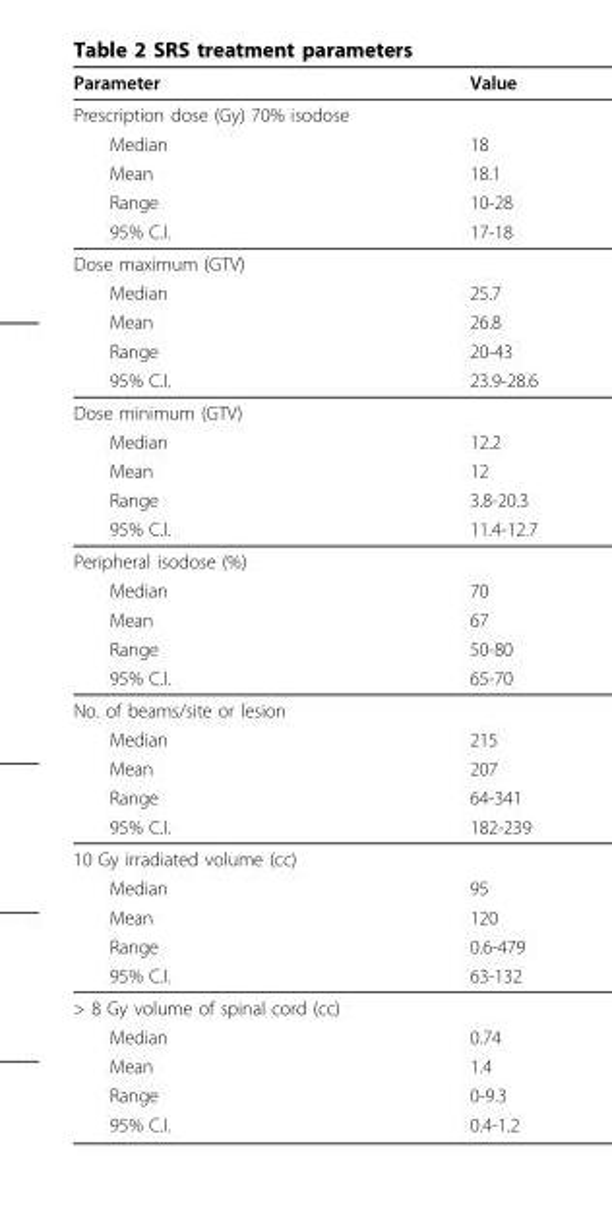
<table><thead><tr><td>Parameter</td><td>Value</td></tr></thead><tbody><tr><td colspan="2">Prescription dose (Gy) 70% isodose</td></tr><tr><td>Median</td><td>18</td></tr><tr><td>Mean</td><td>18.1</td></tr><tr><td>Range</td><td>10-28</td></tr><tr><td>95% C.I.</td><td>17-18</td></tr><tr><td colspan="2">Dose maximum (GTV)</td></tr><tr><td>Median</td><td>25.7</td></tr><tr><td>Mean</td><td>26.8</td></tr><tr><td>Range</td><td>20-43</td></tr><tr><td>95% C.I.</td><td>23.9-28.6</td></tr><tr><td colspan="2">Dose minimum (GTV)</td></tr><tr><td>Median</td><td>12.2</td></tr><tr><td>Mean</td><td>12</td></tr><tr><td>Range</td><td>3.8-20.3</td></tr><tr><td>95% C.I.</td><td>11.4-12.7</td></tr><tr><td colspan="2">Peripheral isodose (%)</td></tr><tr><td>Median</td><td>70</td></tr><tr><td>Mean</td><td>67</td></tr><tr><td>Range</td><td>50-80</td></tr><tr><td>95% C.I.</td><td>65-70</td></tr><tr><td colspan="2">No. of beams/site or lesion</td></tr><tr><td>Median</td><td>215</td></tr><tr><td>Mean</td><td>207</td></tr><tr><td>Range</td><td>64-341</td></tr><tr><td>95% C.I.</td><td>182-239</td></tr><tr><td colspan="2">10 Gy irradiated volume (cc)</td></tr><tr><td>Median</td><td>95</td></tr><tr><td>Mean</td><td>120</td></tr><tr><td>Range</td><td>0.6-479</td></tr><tr><td>95% C.I.</td><td>63-132</td></tr><tr><td colspan="2">&gt; 8 Gy volume of spinal cord (cc)</td></tr><tr><td>Median</td><td>0.74</td></tr><tr><td>Mean</td><td>1.4</td></tr><tr><td>Range</td><td>0-9.3</td></tr><tr><td>95% C.I.</td><td>0.4-1.2</td></tr></tbody></table>